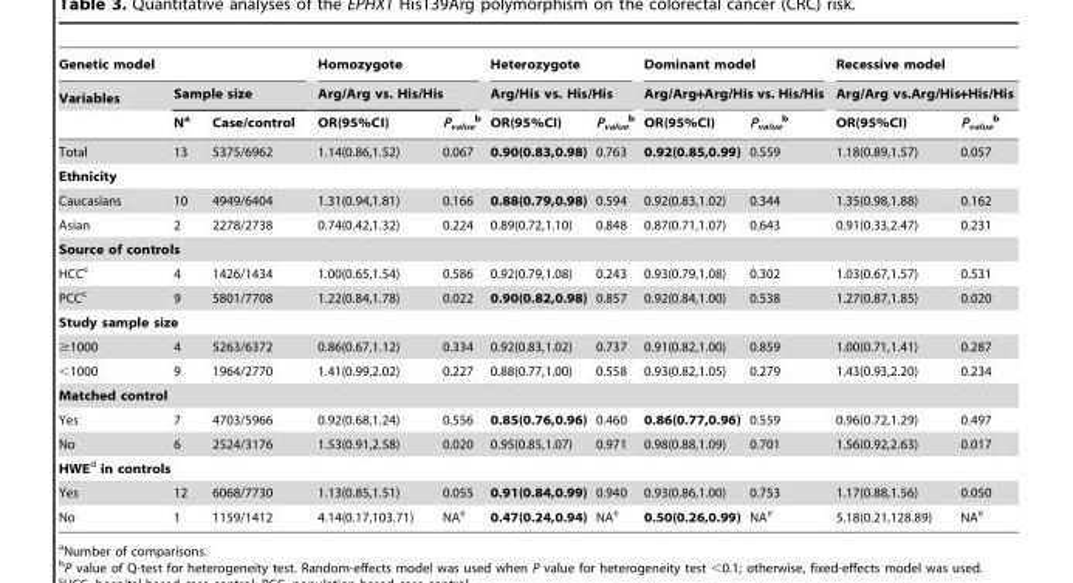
<table><thead><tr><td colspan="3">Genetic model</td><td rowspan="2" colspan="2">Homozygote Arg/Arg vs. His/His</td><td rowspan="2" colspan="2">Heterozygote Arg/His vs. His/His</td><td rowspan="2" colspan="2">Dominant model Arg/Arg+Arg/His vs. His/His</td><td rowspan="2" colspan="2">Recessive model Arg/Arg vs.Arg/His+His/His</td></tr><tr><td rowspan="2">Variables</td><td colspan="2">Sample size</td></tr><tr><td>N<sup>a</sup></td><td>Case/control</td><td>OR(95%CI)</td><td>P<sub>value</sub> b</td><td>OR(95%CI)</td><td>P<sub>value</sub> b</td><td>OR(95%CI)</td><td>P<sub>value</sub> b</td><td>OR(95%CI)</td><td>P<sub>value</sub> b</td></tr></thead><tbody><tr><td>Total</td><td>13</td><td>5375/6962</td><td>1.14(0.86,1.52)</td><td>0.067</td><td>0.90(0.83,0.98)</td><td>0.763</td><td>0.92(0.85,0.99)</td><td>0.559</td><td>1.18(0.89,1.57)</td><td>0.057</td></tr><tr><td colspan="11">Ethnicity</td></tr><tr><td>Caucasians</td><td>10</td><td>4949/6404</td><td>1.31(0.94,1.81)</td><td>0.166</td><td>0.88(0.79,0.98)</td><td>0.594</td><td>0.92(0.83,1.02)</td><td>0.344</td><td>1.35(0.98,1.88)</td><td>0.162</td></tr><tr><td>Asian</td><td>2</td><td>2278/2738</td><td>0.74(0.42,1.32)</td><td>0.224</td><td>0.89(0.72,1.10)</td><td>0.848</td><td>0.87(0.71,1.07)</td><td>0.643</td><td>0.91(0.33,2.47)</td><td>0.231</td></tr><tr><td colspan="11">Source of controls</td></tr><tr><td>HCC<sup>c</sup></td><td>4</td><td>1426/1434</td><td>1.00(0.65,1.54)</td><td>0.586</td><td>0.92(0.79,1.08)</td><td>0.243</td><td>0.93(0.79,1.08)</td><td>0.302</td><td>1.03(0.67,1.57)</td><td>0.531</td></tr><tr><td>PCC<sup>c</sup></td><td>9</td><td>5801/7708</td><td>1.22(0.84,1.78)</td><td>0.022</td><td>0.90(0.82,0.98)</td><td>0.857</td><td>0.92(0.84,1.00)</td><td>0.538</td><td>1.27(0.87,1.85)</td><td>0.020</td></tr><tr><td colspan="11">Study sample size</td></tr><tr><td>≥1000</td><td>4</td><td>5263/6372</td><td>0.86(0.67,1.12)</td><td>0.334</td><td>0.92(0.83,1.02)</td><td>0.737</td><td>0.91(0.82,1.00)</td><td>0.859</td><td>1.00(0.71,1.41)</td><td>0.287</td></tr><tr><td>&lt;1000</td><td>9</td><td>1964/2770</td><td>1.41(0.99,2.02)</td><td>0.227</td><td>0.88(0.77,1.00)</td><td>0.558</td><td>0.93(0.82,1.05)</td><td>0.279</td><td>1.43(0.93,2.20)</td><td>0.234</td></tr><tr><td colspan="11">Matched control</td></tr><tr><td>Yes</td><td>7</td><td>4703/5966</td><td>0.92(0.68,1.24)</td><td>0.556</td><td>0.85(0.76,0.96)</td><td>0.460</td><td>0.86(0.77,0.96)</td><td>0.559</td><td>0.96(0.72,1.29)</td><td>0.497</td></tr><tr><td>No</td><td>6</td><td>2524/3176</td><td>1.53(0.91,2.58)</td><td>0.020</td><td>0.95(0.85,1.07)</td><td>0.971</td><td>0.98(0.88,1.09)</td><td>0.701</td><td>1.56(0.92,2.63)</td><td>0.017</td></tr><tr><td colspan="11">HWEd in controls</td></tr><tr><td>Yes</td><td>12</td><td>6068/7730</td><td>1.13(0.85,1.51)</td><td>0.055</td><td>0.91(0.84,0.99)</td><td>0.940</td><td>0.93(0.86,1.00)</td><td>0.753</td><td>1.17(0.88,1.56)</td><td>0.050</td></tr><tr><td>No</td><td>1</td><td>1159/1412</td><td>4.14(0.17,103.71)</td><td>NA<sup>e</sup></td><td>0.47(0.24,0.94)</td><td>NA<sup>e</sup></td><td>0.50(0.26,0.99)</td><td>NA<sup>e</sup></td><td>5.18(0.21,128.89)</td><td>NA<sup>e</sup></td></tr></tbody></table>